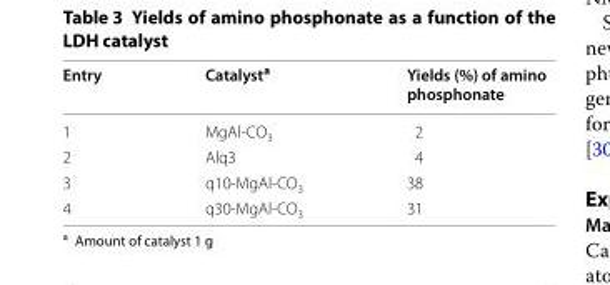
<table><thead><tr><td>Entry</td><td>Catalyst<sup>a</sup></td><td>Yields (%) of amino phosphonate</td></tr></thead><tbody><tr><td>1</td><td>MgAl-CO<sub>3</sub></td><td>2</td></tr><tr><td>2</td><td>Alq3</td><td>4</td></tr><tr><td>3</td><td>q10-MgAl-CO<sub>3</sub></td><td>38</td></tr><tr><td>4</td><td>q30-MgAl-CO<sub>3</sub></td><td>31</td></tr></tbody></table>